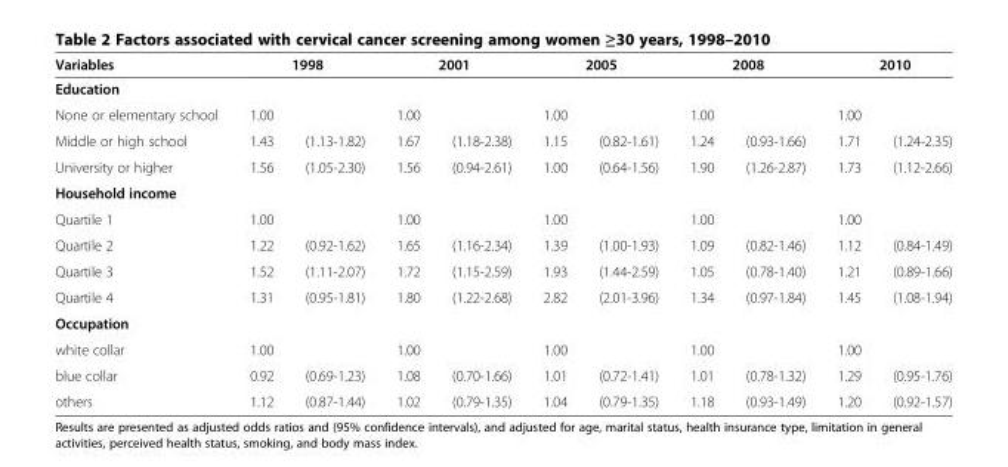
<table><thead><tr><td rowspan="2">Variables Education</td><td colspan="2">1998</td><td colspan="2">2001</td><td colspan="2">2005</td><td colspan="2">2008</td><td colspan="2">2010</td></tr><tr><td></td><td></td><td></td><td></td><td></td><td></td><td></td><td></td><td></td><td></td></tr></thead><tbody><tr><td>None or elementary school</td><td>1.00</td><td></td><td>1.00</td><td></td><td>1.00</td><td></td><td>1.00</td><td></td><td>1.00</td><td></td></tr><tr><td>Middle or high school</td><td>1.43</td><td>(1.13-1.82)</td><td>1.67</td><td>(1.18-2.38)</td><td>1.15</td><td>(0.82-1.61)</td><td>1.24</td><td>(0.93-1.66)</td><td>1.71</td><td>(1.24-2.35)</td></tr><tr><td>University or higher</td><td>1.56</td><td>(1.05-2.30)</td><td>1.56</td><td>(0.94-2.61)</td><td>1.00</td><td>(0.64-1.56)</td><td>1.90</td><td>(1.26-2.87)</td><td>1.73</td><td>(1.12-2.66)</td></tr><tr><td colspan="11">Household income</td></tr><tr><td>Quartile 1</td><td>1.00</td><td></td><td>1.00</td><td></td><td>1.00</td><td></td><td>1.00</td><td></td><td>1.00</td><td></td></tr><tr><td>Quartile 2</td><td>1.22</td><td>(0.92-1.62)</td><td>1.65</td><td>(1.16-2.34)</td><td>1.39</td><td>(1.00-1.93)</td><td>1.09</td><td>(0.82-1.46)</td><td>1.12</td><td>(0.84-1.49)</td></tr><tr><td>Quartile 3</td><td>1.52</td><td>(1.11-2.07)</td><td>1.72</td><td>(1.15-2.59)</td><td>1.93</td><td>(1.44-2.59)</td><td>1.05</td><td>(0.78-1.40)</td><td>1.21</td><td>(0.89-1.66)</td></tr><tr><td>Quartile 4</td><td>1.31</td><td>(0.95-1.81)</td><td>1.80</td><td>(1.22-2.68)</td><td>2.82</td><td>(2.01-3.96)</td><td>1.34</td><td>(0.97-1.84)</td><td>1.45</td><td>(1.08-1.94)</td></tr><tr><td colspan="11">Occupation</td></tr><tr><td>white collar</td><td>1.00</td><td></td><td>1.00</td><td></td><td>1.00</td><td></td><td>1.00</td><td></td><td>1.00</td><td></td></tr><tr><td>blue collar</td><td>0.92</td><td>(0.69-1.23)</td><td>1.08</td><td>(0.70-1.66)</td><td>1.01</td><td>(0.72-1.41)</td><td>1.01</td><td>(0.78-1.32)</td><td>1.29</td><td>(0.95-1.76)</td></tr><tr><td>others</td><td>1.12</td><td>(0.87-1.44)</td><td>1.02</td><td>(0.79-1.35)</td><td>1.04</td><td>(0.79-1.35)</td><td>1.18</td><td>(0.93-1.49)</td><td>1.20</td><td>(0.92-1.57)</td></tr></tbody></table>